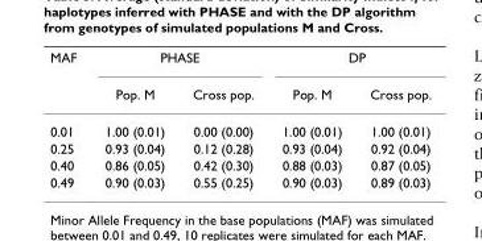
<table><thead><tr><td rowspan="2">MAF</td><td colspan="2">PHASE</td><td colspan="2">DP</td></tr><tr><td>Pop. M</td><td>Cross pop.</td><td>Pop. M</td><td>Cross pop.</td></tr></thead><tbody><tr><td>0.01</td><td>1.00 (0.01)</td><td>0.00 (0.00)</td><td>1.00 (0.01)</td><td>1.00 (0.01)</td></tr><tr><td>0.25</td><td>0.93 (0.04)</td><td>0.12 (0.28)</td><td>0.93 (0.04)</td><td>0.92 (0.04)</td></tr><tr><td>0.40</td><td>0.86 (0.05)</td><td>0.42 (0.30)</td><td>0.88 (0.03)</td><td>0.87 (0.05)</td></tr><tr><td>0.49</td><td>0.90 (0.03)</td><td>0.55 (0.25)</td><td>0.90 (0.03)</td><td>0.89 (0.03)</td></tr></tbody></table>